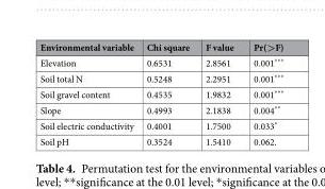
<table><thead><tr><td>Environmental variable</td><td>Chi square</td><td>F value</td><td>Pr(&gt;F)</td></tr></thead><tbody><tr><td>Elevation</td><td>0.6531</td><td>2.8561</td><td>0.001***</td></tr><tr><td>Soil total N</td><td>0.5248</td><td>2.2951</td><td>0.001***</td></tr><tr><td>Soil gravel content</td><td>0.4535</td><td>1.9832</td><td>0.001***</td></tr><tr><td>Slope</td><td>0.4993</td><td>2.1838</td><td>0.004**</td></tr><tr><td>Soil electric conductivity</td><td>0.4001</td><td>1.7500</td><td>0.033*</td></tr><tr><td>Soil pH</td><td>0.3524</td><td>1.5410</td><td>0.062.</td></tr></tbody></table>